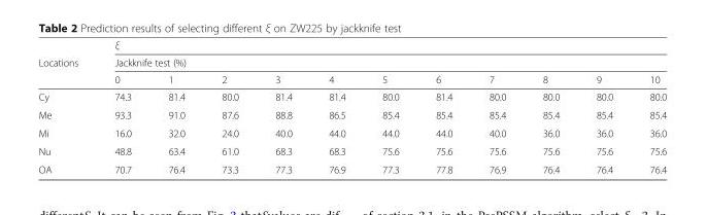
<table><thead><tr><td rowspan="3">Locations</td><td rowspan="2" colspan="11">ξ Jackknife test (%)</td></tr><tr></tr><tr><td>0</td><td>1</td><td>2</td><td>3</td><td>4</td><td>5</td><td>6</td><td>7</td><td>8</td><td>9</td><td>10</td></tr></thead><tbody><tr><td>Cy</td><td>74.3</td><td>81.4</td><td>80.0</td><td>81.4</td><td>81.4</td><td>80.0</td><td>81.4</td><td>80.0</td><td>80.0</td><td>80.0</td><td>80.0</td></tr><tr><td>Me</td><td>93.3</td><td>91.0</td><td>87.6</td><td>88.8</td><td>86.5</td><td>85.4</td><td>85.4</td><td>85.4</td><td>85.4</td><td>85.4</td><td>85.4</td></tr><tr><td>Mi</td><td>16.0</td><td>32.0</td><td>24.0</td><td>40.0</td><td>44.0</td><td>44.0</td><td>44.0</td><td>40.0</td><td>36.0</td><td>36.0</td><td>36.0</td></tr><tr><td>Nu</td><td>48.8</td><td>63.4</td><td>61.0</td><td>68.3</td><td>68.3</td><td>75.6</td><td>75.6</td><td>75.6</td><td>75.6</td><td>75.6</td><td>75.6</td></tr><tr><td>OA</td><td>70.7</td><td>76.4</td><td>73.3</td><td>77.3</td><td>76.9</td><td>77.3</td><td>77.8</td><td>76.9</td><td>76.4</td><td>76.4</td><td>76.4</td></tr></tbody></table>